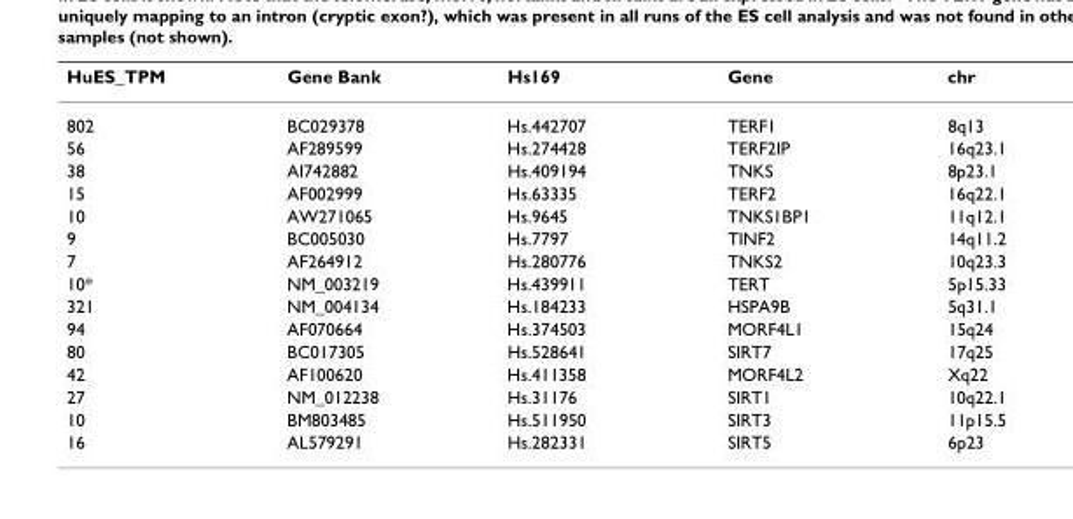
<table><thead><tr><td>HuES_TPM</td><td>Gene Bank</td><td>Hs169</td><td>Gene</td><td>chr</td></tr></thead><tbody><tr><td>802</td><td>BC029378</td><td>Hs.442707</td><td>TERF1</td><td>8q13</td></tr><tr><td>56</td><td>AF289599</td><td>Hs.274428</td><td>TERF2IP</td><td>16q23.1</td></tr><tr><td>38</td><td>AI742882</td><td>Hs.409194</td><td>TNKS</td><td>8p23.1</td></tr><tr><td>15</td><td>AF002999</td><td>Hs.63335</td><td>TERF2</td><td>16q22.1</td></tr><tr><td>10</td><td>AW271065</td><td>Hs.9645</td><td>TNKS1BP1</td><td>11q12.1</td></tr><tr><td>9</td><td>BC005030</td><td>Hs.7797</td><td>TINF2</td><td>14q11.2</td></tr><tr><td>7</td><td>AF264912</td><td>Hs.280776</td><td>TNKS2</td><td>10q23.3</td></tr><tr><td>10*</td><td>NM_003219</td><td>Hs.439911</td><td>TERT</td><td>5p15.33</td></tr><tr><td>321</td><td>NM_004134</td><td>Hs.184233</td><td>HSPA9B</td><td>5q31.1</td></tr><tr><td>94</td><td>AF070664</td><td>Hs.374503</td><td>MORF4L1</td><td>15q24</td></tr><tr><td>80</td><td>BC017305</td><td>Hs.528641</td><td>SIRT7</td><td>17q25</td></tr><tr><td>42</td><td>AF100620</td><td>Hs.411358</td><td>MORF4L2</td><td>Xq22</td></tr><tr><td>27</td><td>NM_012238</td><td>Hs.31176</td><td>SIRT1</td><td>10q22.1</td></tr><tr><td>10</td><td>BM803485</td><td>Hs.511950</td><td>SIRT3</td><td>11p15.5</td></tr><tr><td>16</td><td>AL579291</td><td>Hs.282331</td><td>SIRT5</td><td>6p23</td></tr></tbody></table>